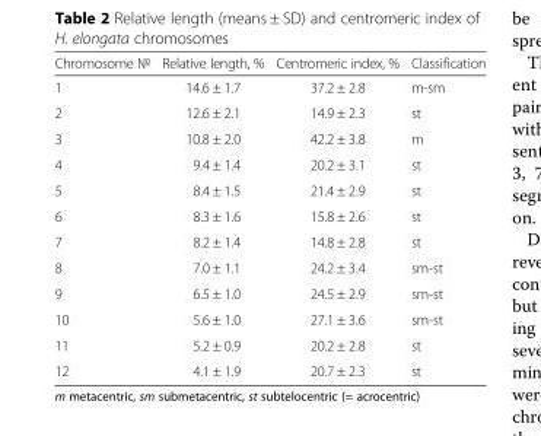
<table><thead><tr><td>Chromosome №</td><td>Relative length, %</td><td>Centromeric index, %</td><td>Classification</td></tr></thead><tbody><tr><td>1</td><td>14.6 ± 1.7</td><td>37.2 ± 2.8</td><td>m-sm</td></tr><tr><td>2</td><td>12.6 ± 2.1</td><td>14.9 ± 2.3</td><td>st</td></tr><tr><td>3</td><td>10.8 ± 2.0</td><td>42.2 ± 3.8</td><td>m</td></tr><tr><td>4</td><td>9.4 ± 1.4</td><td>20.2 ± 3.1</td><td>st</td></tr><tr><td>5</td><td>8.4 ± 1.5</td><td>21.4 ± 2.9</td><td>st</td></tr><tr><td>6</td><td>8.3 ± 1.6</td><td>15.8 ± 2.6</td><td>st</td></tr><tr><td>7</td><td>8.2 ± 1.4</td><td>14.8 ± 2.8</td><td>st</td></tr><tr><td>8</td><td>7.0 ± 1.1</td><td>24.2 ± 3.4</td><td>sm-st</td></tr><tr><td>9</td><td>6.5 ± 1.0</td><td>24.5 ± 2.9</td><td>sm-st</td></tr><tr><td>10</td><td>5.6 ± 1.0</td><td>27.1 ± 3.6</td><td>sm-st</td></tr><tr><td>11</td><td>5.2 ± 0.9</td><td>20.2 ± 2.8</td><td>st</td></tr><tr><td>12</td><td>4.1 ± 1.9</td><td>20.7 ± 2.3</td><td>st</td></tr></tbody></table>